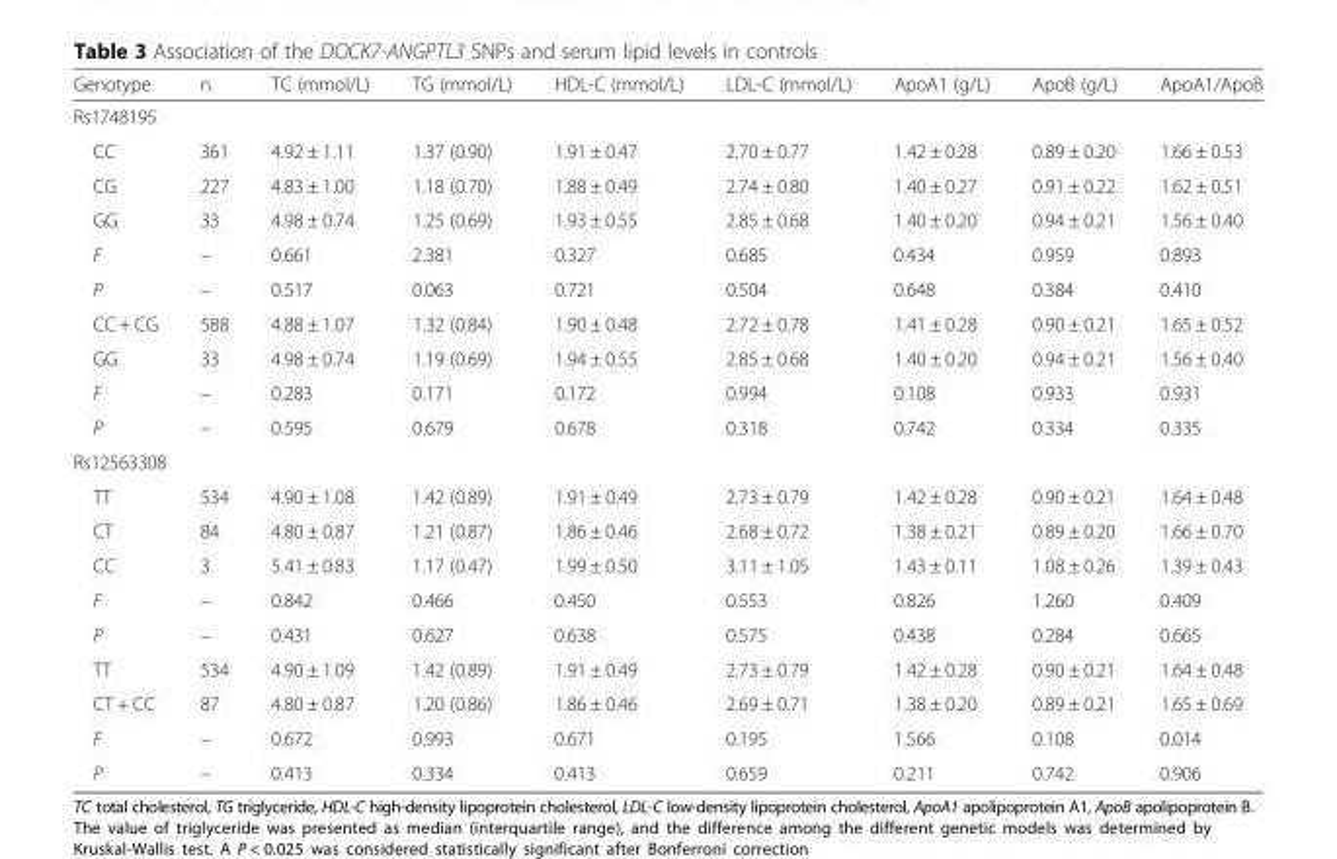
<table><thead><tr><td>Genotype</td><td>n</td><td>TC (mmol/L)</td><td>TG (mmol/L)</td><td>HDL-C (mmol/L)</td><td>LDL-C (mmol/L)</td><td>ApoA1 (g/L)</td><td>ApoB (g/L)</td><td>ApoA1/ApoB</td></tr></thead><tbody><tr><td colspan="9">Rs1748195</td></tr><tr><td>CC</td><td>361</td><td>4.92 ± 1.11</td><td>1.37 (0.90)</td><td>1.91 ± 0.47</td><td>2.70 ± 0.77</td><td>1.42 ± 0.28</td><td>0.89 ± 0.20</td><td>1.66 ± 0.53</td></tr><tr><td>CG</td><td>227</td><td>4.83 ± 1.00</td><td>1.18 (0.70)</td><td>1.88 ± 0.49</td><td>2.74 ± 0.80</td><td>1.40 ± 0.27</td><td>0.91 ± 0.22</td><td>1.62 ± 0.51</td></tr><tr><td>GG</td><td>33</td><td>4.98 ± 0.74</td><td>1.25 (0.69)</td><td>1.93 ± 0.55</td><td>2.85 ± 0.68</td><td>1.40 ± 0.20</td><td>0.94 ± 0.21</td><td>1.56 ± 0.40</td></tr><tr><td>F</td><td>–</td><td>0.661</td><td>2.381</td><td>0.327</td><td>0.685</td><td>0.434</td><td>0.959</td><td>0.893</td></tr><tr><td>P</td><td>–</td><td>0.517</td><td>0.063</td><td>0.721</td><td>0.504</td><td>0.648</td><td>0.384</td><td>0.410</td></tr><tr><td>CC + CG</td><td>588</td><td>4.88 ± 1.07</td><td>1.32 (0.84)</td><td>1.90 ± 0.48</td><td>2.72 ± 0.78</td><td>1.41 ± 0.28</td><td>0.90 ± 0.21</td><td>1.65 ± 0.52</td></tr><tr><td>GG</td><td>33</td><td>4.98 ± 0.74</td><td>1.19 (0.69)</td><td>1.94 ± 0.55</td><td>2.85 ± 0.68</td><td>1.40 ± 0.20</td><td>0.94 ± 0.21</td><td>1.56 ± 0.40</td></tr><tr><td>F</td><td>–</td><td>0.283</td><td>0.171</td><td>0.172</td><td>0.994</td><td>0.108</td><td>0.933</td><td>0.931</td></tr><tr><td>P</td><td>–</td><td>0.595</td><td>0.679</td><td>0.678</td><td>0.318</td><td>0.742</td><td>0.334</td><td>0.335</td></tr><tr><td colspan="9">Rs12563308</td></tr><tr><td>TT</td><td>534</td><td>4.90 ± 1.08</td><td>1.42 (0.89)</td><td>1.91 ± 0.49</td><td>2.73 ± 0.79</td><td>1.42 ± 0.28</td><td>0.90 ± 0.21</td><td>1.64 ± 0.48</td></tr><tr><td>CT</td><td>84</td><td>4.80 ± 0.87</td><td>1.21 (0.87)</td><td>1.86 ± 0.46</td><td>2.68 ± 0.72</td><td>1.38 ± 0.21</td><td>0.89 ± 0.20</td><td>1.66 ± 0.70</td></tr><tr><td>CC</td><td>3</td><td>5.41 ± 0.83</td><td>1.17 (0.47)</td><td>1.99 ± 0.50</td><td>3.11 ± 1.05</td><td>1.43 ± 0.11</td><td>1.08 ± 0.26</td><td>1.39 ± 0.43</td></tr><tr><td>F</td><td>–</td><td>0.842</td><td>0.466</td><td>0.450</td><td>0.553</td><td>0.826</td><td>1.260</td><td>0.409</td></tr><tr><td>P</td><td>–</td><td>0.431</td><td>0.627</td><td>0.638</td><td>0.575</td><td>0.438</td><td>0.284</td><td>0.665</td></tr><tr><td>TT</td><td>534</td><td>4.90 ± 1.09</td><td>1.42 (0.89)</td><td>1.91 ± 0.49</td><td>2.73 ± 0.79</td><td>1.42 ± 0.28</td><td>0.90 ± 0.21</td><td>1.64 ± 0.48</td></tr><tr><td>CT + CC</td><td>87</td><td>4.80 ± 0.87</td><td>1.20 (0.86)</td><td>1.86 ± 0.46</td><td>2.69 ± 0.71</td><td>1.38 ± 0.20</td><td>0.89 ± 0.21</td><td>1.65 ± 0.69</td></tr><tr><td>F</td><td>–</td><td>0.672</td><td>0.993</td><td>0.671</td><td>0.195</td><td>1.566</td><td>0.108</td><td>0.014</td></tr><tr><td>P</td><td>–</td><td>0.413</td><td>0.334</td><td>0.413</td><td>0.659</td><td>0.211</td><td>0.742</td><td>0.906</td></tr></tbody></table>